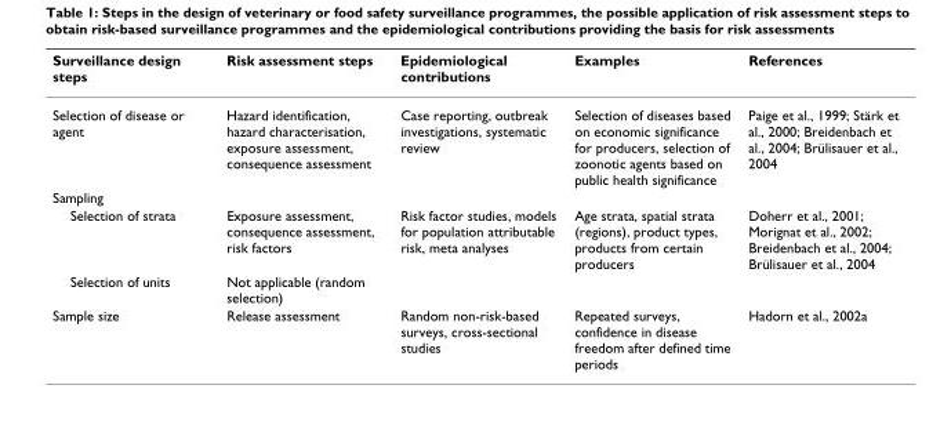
<table><thead><tr><td>Surveillance design steps</td><td>Risk assessment steps</td><td>Epidemiological contributions</td><td>Examples</td><td>References</td></tr></thead><tbody><tr><td>Selection of disease or agent</td><td>Hazard identification, hazard characterisation, exposure assessment, consequence assessment</td><td>Case reporting, outbreak investigations, systematic review</td><td>Selection of diseases based on economic significance for producers, selection of zoonotic agents based on public health significance</td><td>Paige et al., 1999; Stärk et al., 2000; Breidenbach et al., 2004; Brülisauer et al., 2004</td></tr><tr><td colspan="5">Sampling</td></tr><tr><td>Selection of strata</td><td>Exposure assessment, consequence assessment, risk factors</td><td>Risk factor studies, models for population attributable risk, meta analyses</td><td>Age strata, spatial strata (regions), product types, products from certain producers</td><td>Doherr et al., 2001; Morignat et al., 2002; Breidenbach et al., 2004; Brülisauer et al., 2004</td></tr><tr><td>Selection of units</td><td>Not applicable (random selection)</td><td></td><td></td><td></td></tr><tr><td>Sample size</td><td>Release assessment</td><td>Random non-risk-based surveys, cross-sectional studies</td><td>Repeated surveys, confidence in disease freedom after defined time periods</td><td>Hadorn et al., 2002a</td></tr></tbody></table>